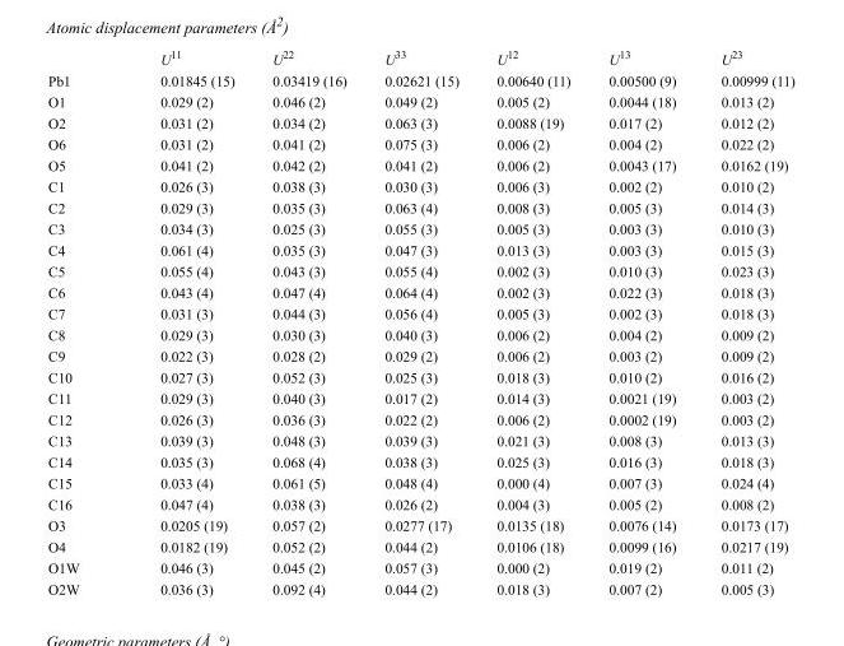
<table><thead><tr><td></td><td>U<sup>11</sup></td><td>U<sup>22</sup></td><td>U<sup>33</sup></td><td>U<sup>12</sup></td><td>U<sup>13</sup></td><td>U<sup>23</sup></td></tr></thead><tbody><tr><td>Pb1</td><td>0.01845 (15)</td><td>0.03419 (16)</td><td>0.02621 (15)</td><td>0.00640 (11)</td><td>0.00500 (9)</td><td>0.00999 (11)</td></tr><tr><td>O1</td><td>0.029 (2)</td><td>0.046 (2)</td><td>0.049 (2)</td><td>0.005 (2)</td><td>0.0044 (18)</td><td>0.013 (2)</td></tr><tr><td>O2</td><td>0.031 (2)</td><td>0.034 (2)</td><td>0.063 (3)</td><td>0.0088 (19)</td><td>0.017 (2)</td><td>0.012 (2)</td></tr><tr><td>O6</td><td>0.031 (2)</td><td>0.041 (2)</td><td>0.075 (3)</td><td>0.006 (2)</td><td>0.004 (2)</td><td>0.022 (2)</td></tr><tr><td>O5</td><td>0.041 (2)</td><td>0.042 (2)</td><td>0.041 (2)</td><td>0.006 (2)</td><td>0.0043 (17)</td><td>0.0162 (19)</td></tr><tr><td>C1</td><td>0.026 (3)</td><td>0.038 (3)</td><td>0.030 (3)</td><td>0.006 (3)</td><td>0.002 (2)</td><td>0.010 (2)</td></tr><tr><td>C2</td><td>0.029 (3)</td><td>0.035 (3)</td><td>0.063 (4)</td><td>0.008 (3)</td><td>0.005 (3)</td><td>0.014 (3)</td></tr><tr><td>C3</td><td>0.034 (3)</td><td>0.025 (3)</td><td>0.055 (3)</td><td>0.005 (3)</td><td>0.003 (3)</td><td>0.010 (3)</td></tr><tr><td>C4</td><td>0.061 (4)</td><td>0.035 (3)</td><td>0.047 (3)</td><td>0.013 (3)</td><td>0.003 (3)</td><td>0.015 (3)</td></tr><tr><td>C5</td><td>0.055 (4)</td><td>0.043 (3)</td><td>0.055 (4)</td><td>0.002 (3)</td><td>0.010 (3)</td><td>0.023 (3)</td></tr><tr><td>C6</td><td>0.043 (4)</td><td>0.047 (4)</td><td>0.064 (4)</td><td>0.002 (3)</td><td>0.022 (3)</td><td>0.018 (3)</td></tr><tr><td>C7</td><td>0.031 (3)</td><td>0.044 (3)</td><td>0.056 (4)</td><td>0.005 (3)</td><td>0.002 (3)</td><td>0.018 (3)</td></tr><tr><td>C8</td><td>0.029 (3)</td><td>0.030 (3)</td><td>0.040 (3)</td><td>0.006 (2)</td><td>0.004 (2)</td><td>0.009 (2)</td></tr><tr><td>C9</td><td>0.022 (3)</td><td>0.028 (2)</td><td>0.029 (2)</td><td>0.006 (2)</td><td>0.003 (2)</td><td>0.009 (2)</td></tr><tr><td>C10</td><td>0.027 (3)</td><td>0.052 (3)</td><td>0.025 (3)</td><td>0.018 (3)</td><td>0.010 (2)</td><td>0.016 (2)</td></tr><tr><td>C11</td><td>0.029 (3)</td><td>0.040 (3)</td><td>0.017 (2)</td><td>0.014 (3)</td><td>0.0021 (19)</td><td>0.003 (2)</td></tr><tr><td>C12</td><td>0.026 (3)</td><td>0.036 (3)</td><td>0.022 (2)</td><td>0.006 (2)</td><td>0.0002 (19)</td><td>0.003 (2)</td></tr><tr><td>C13</td><td>0.039 (3)</td><td>0.048 (3)</td><td>0.039 (3)</td><td>0.021 (3)</td><td>0.008 (3)</td><td>0.013 (3)</td></tr><tr><td>C14</td><td>0.035 (3)</td><td>0.068 (4)</td><td>0.038 (3)</td><td>0.025 (3)</td><td>0.016 (3)</td><td>0.018 (3)</td></tr><tr><td>C15</td><td>0.033 (4)</td><td>0.061 (5)</td><td>0.048 (4)</td><td>0.000 (4)</td><td>0.007 (3)</td><td>0.024 (4)</td></tr><tr><td>C16</td><td>0.047 (4)</td><td>0.038 (3)</td><td>0.026 (2)</td><td>0.004 (3)</td><td>0.005 (2)</td><td>0.008 (2)</td></tr><tr><td>O3</td><td>0.0205 (19)</td><td>0.057 (2)</td><td>0.0277 (17)</td><td>0.0135 (18)</td><td>0.0076 (14)</td><td>0.0173 (17)</td></tr><tr><td>O4</td><td>0.0182 (19)</td><td>0.052 (2)</td><td>0.044 (2)</td><td>0.0106 (18)</td><td>0.0099 (16)</td><td>0.0217 (19)</td></tr><tr><td>O1W</td><td>0.046 (3)</td><td>0.045 (2)</td><td>0.057 (3)</td><td>0.000 (2)</td><td>0.019 (2)</td><td>0.011 (2)</td></tr><tr><td>O2W</td><td>0.036 (3)</td><td>0.092 (4)</td><td>0.044 (2)</td><td>0.018 (3)</td><td>0.007 (2)</td><td>0.005 (3)</td></tr></tbody></table>